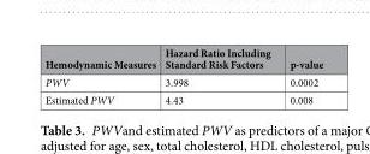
<table><thead><tr><td>Hemodynamic Measures</td><td>Hazard Ratio Including Standard Risk Factors</td><td>p-value</td></tr></thead><tbody><tr><td>PWV</td><td>3.998</td><td>0.0002</td></tr><tr><td>Estimated PWV</td><td>4.43</td><td>0.008</td></tr></tbody></table>